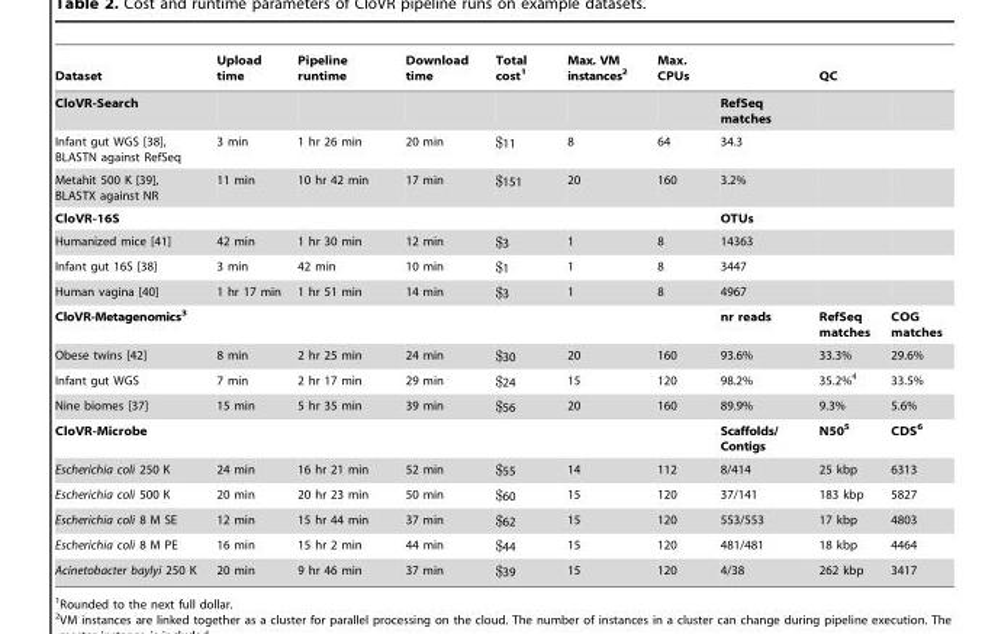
<table><thead><tr><td>Dataset</td><td>Upload time</td><td>Pipeline runtime</td><td>Download time</td><td>Total cost<sup>1</sup></td><td>Max. VM instances<sup>2</sup></td><td>Max. CPUs</td><td></td><td>QC</td><td></td></tr></thead><tbody><tr><td>CloVR-Search</td><td></td><td></td><td></td><td></td><td></td><td></td><td>RefSeq matches</td><td></td><td></td></tr><tr><td>Infant gut WGS [38], BLASTN against RefSeq</td><td>3 min</td><td>1 hr 26 min</td><td>20 min</td><td>$11</td><td>8</td><td>64</td><td>34.3</td><td></td><td></td></tr><tr><td>Metahit 500 K [39], BLASTX against NR</td><td>11 min</td><td>10 hr 42 min</td><td>17 min</td><td>$151</td><td>20</td><td>160</td><td>3.2%</td><td></td><td></td></tr><tr><td>CloVR-16S</td><td></td><td></td><td></td><td></td><td></td><td></td><td>OTUs</td><td></td><td></td></tr><tr><td>Humanized mice [41]</td><td>42 min</td><td>1 hr 30 min</td><td>12 min</td><td>$3</td><td>1</td><td>8</td><td>14363</td><td></td><td></td></tr><tr><td>Infant gut 16S [38]</td><td>3 min</td><td>42 min</td><td>10 min</td><td>$1</td><td>1</td><td>8</td><td>3447</td><td></td><td></td></tr><tr><td>Human vagina [40]</td><td>1 hr 17 min</td><td>1 hr 51 min</td><td>14 min</td><td>$3</td><td>1</td><td>8</td><td>4967</td><td></td><td></td></tr><tr><td>CloVR-Metagenomics3</td><td></td><td></td><td></td><td></td><td></td><td></td><td>nr reads</td><td>RefSeq matches</td><td>COG matches</td></tr><tr><td>Obese twins [42]</td><td>8 min</td><td>2 hr 25 min</td><td>24 min</td><td>$30</td><td>20</td><td>160</td><td>93.6%</td><td>33.3%</td><td>29.6%</td></tr><tr><td>Infant gut WGS</td><td>7 min</td><td>2 hr 17 min</td><td>29 min</td><td>$24</td><td>15</td><td>120</td><td>98.2%</td><td>35.2%<sup>4</sup></td><td>33.5%</td></tr><tr><td>Nine biomes [37]</td><td>15 min</td><td>5 hr 35 min</td><td>39 min</td><td>$56</td><td>20</td><td>160</td><td>89.9%</td><td>9.3%</td><td>5.6%</td></tr><tr><td>CloVR-Microbe</td><td></td><td></td><td></td><td></td><td></td><td></td><td>Scaffolds/ Contigs</td><td>N505</td><td>CDS6</td></tr><tr><td>Escherichia coli 250 K</td><td>24 min</td><td>16 hr 21 min</td><td>52 min</td><td>$55</td><td>14</td><td>112</td><td>8/414</td><td>25 kbp</td><td>6313</td></tr><tr><td>Escherichia coli 500 K</td><td>20 min</td><td>20 hr 23 min</td><td>50 min</td><td>$60</td><td>15</td><td>120</td><td>37/141</td><td>183 kbp</td><td>5827</td></tr><tr><td>Escherichia coli 8 M SE</td><td>12 min</td><td>15 hr 44 min</td><td>37 min</td><td>$62</td><td>15</td><td>120</td><td>553/553</td><td>17 kbp</td><td>4803</td></tr><tr><td>Escherichia coli 8 M PE</td><td>16 min</td><td>15 hr 2 min</td><td>44 min</td><td>$44</td><td>15</td><td>120</td><td>481/481</td><td>18 kbp</td><td>4464</td></tr><tr><td>Acinetobacter baylyi 250 K</td><td>20 min</td><td>9 hr 46 min</td><td>37 min</td><td>$39</td><td>15</td><td>120</td><td>4/38</td><td>262 kbp</td><td>3417</td></tr></tbody></table>